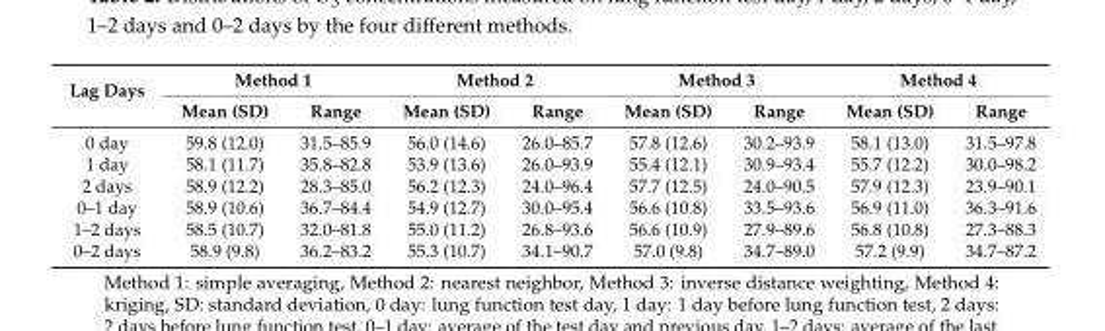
<table><thead><tr><td rowspan="2">Lag Days</td><td colspan="2">Method 1</td><td colspan="2">Method 2</td><td colspan="2">Method 3</td><td colspan="2">Method 4</td></tr><tr><td>Mean (SD)</td><td>Range</td><td>Mean (SD)</td><td>Range</td><td>Mean (SD)</td><td>Range</td><td>Mean (SD)</td><td>Range</td></tr></thead><tbody><tr><td>0 day</td><td>59.8 (12.0)</td><td>31.5–85.9</td><td>56.0 (14.6)</td><td>26.0–85.7</td><td>57.8 (12.6)</td><td>30.2–93.9</td><td>58.1 (13.0)</td><td>31.5–97.8</td></tr><tr><td>1 day</td><td>58.1 (11.7)</td><td>35.8–82.8</td><td>53.9 (13.6)</td><td>26.0–93.9</td><td>55.4 (12.1)</td><td>30.9–93.4</td><td>55.7 (12.2)</td><td>30.0–98.2</td></tr><tr><td>2 days</td><td>58.9 (12.2)</td><td>28.3–85.0</td><td>56.2 (12.3)</td><td>24.0–96.4</td><td>57.7 (12.5)</td><td>24.0–90.5</td><td>57.9 (12.3)</td><td>23.9–90.1</td></tr><tr><td>0–1 day</td><td>58.9 (10.6)</td><td>36.7–84.4</td><td>54.9 (12.7)</td><td>30.0–95.4</td><td>56.6 (10.8)</td><td>33.5–93.6</td><td>56.9 (11.0)</td><td>36.3–91.6</td></tr><tr><td>1–2 days</td><td>58.5 (10.7)</td><td>32.0–81.8</td><td>55.0 (11.2)</td><td>26.8–93.6</td><td>56.6 (10.9)</td><td>27.9–89.6</td><td>56.8 (10.8)</td><td>27.3–88.3</td></tr><tr><td>0–2 days</td><td>58.9 (9.8)</td><td>36.2–83.2</td><td>55.3 (10.7)</td><td>34.1–90.7</td><td>57.0 (9.8)</td><td>34.7–89.0</td><td>57.2 (9.9)</td><td>34.7–87.2</td></tr></tbody></table>